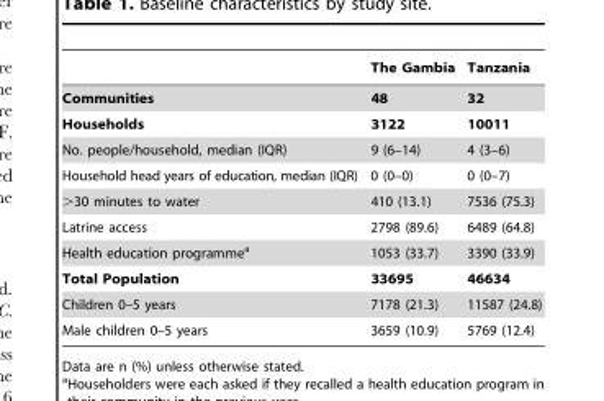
<table><thead><tr><td></td><td>The Gambia</td><td>Tanzania</td></tr></thead><tbody><tr><td>Communities</td><td>48</td><td>32</td></tr><tr><td>Households</td><td>3122</td><td>10011</td></tr><tr><td>No. people/household, median (IQR)</td><td>9 (6–14)</td><td>4 (3–6)</td></tr><tr><td>Household head years of education, median (IQR)</td><td>0 (0–0)</td><td>0 (0–7)</td></tr><tr><td>&gt;30 minutes to water</td><td>410 (13.1)</td><td>7536 (75.3)</td></tr><tr><td>Latrine access</td><td>2798 (89.6)</td><td>6489 (64.8)</td></tr><tr><td>Health education programme<sup>a</sup></td><td>1053 (33.7)</td><td>3390 (33.9)</td></tr><tr><td>Total Population</td><td>33695</td><td>46634</td></tr><tr><td>Children 0–5 years</td><td>7178 (21.3)</td><td>11587 (24.8)</td></tr><tr><td>Male children 0–5 years</td><td>3659 (10.9)</td><td>5769 (12.4)</td></tr></tbody></table>